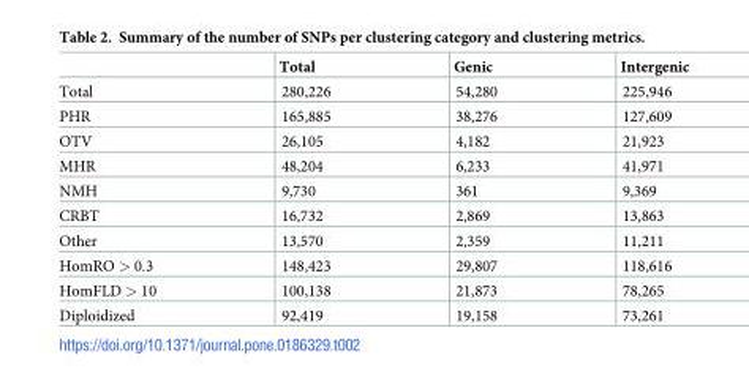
<table><thead><tr><td></td><td>Total</td><td>Genic</td><td>Intergenic</td></tr></thead><tbody><tr><td>Total</td><td>280,226</td><td>54,280</td><td>225,946</td></tr><tr><td>PHR</td><td>165,885</td><td>38,276</td><td>127,609</td></tr><tr><td>OTV</td><td>26,105</td><td>4,182</td><td>21,923</td></tr><tr><td>MHR</td><td>48,204</td><td>6,233</td><td>41,971</td></tr><tr><td>NMH</td><td>9,730</td><td>361</td><td>9,369</td></tr><tr><td>CRBT</td><td>16,732</td><td>2,869</td><td>13,863</td></tr><tr><td>Other</td><td>13,570</td><td>2,359</td><td>11,211</td></tr><tr><td>HomRO &gt; 0.3</td><td>148,423</td><td>29,807</td><td>118,616</td></tr><tr><td>HomFLD &gt; 10</td><td>100,138</td><td>21,873</td><td>78,265</td></tr><tr><td>Diploidized</td><td>92,419</td><td>19,158</td><td>73,261</td></tr></tbody></table>